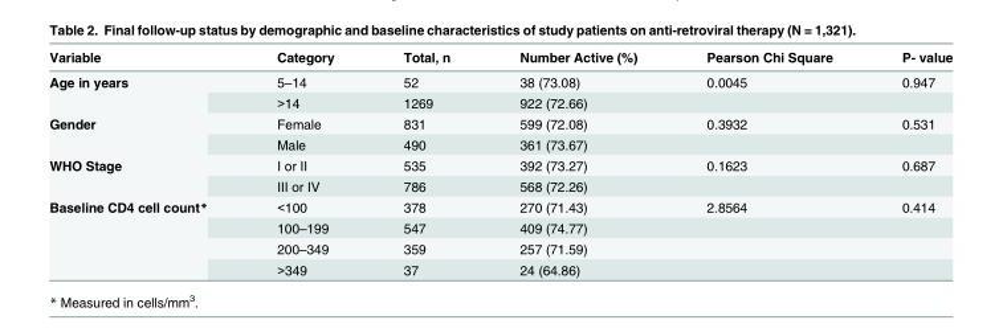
<table><thead><tr><td>Variable</td><td>Category</td><td>Total, n</td><td>Number Active (%)</td><td>Pearson Chi Square</td><td>P- value</td></tr></thead><tbody><tr><td rowspan="2">Age in years</td><td>5–14</td><td>52</td><td>38 (73.08)</td><td>0.0045</td><td>0.947</td></tr><tr><td>&gt;14</td><td>1269</td><td>922 (72.66)</td><td></td><td></td></tr><tr><td rowspan="2">Gender</td><td>Female</td><td>831</td><td>599 (72.08)</td><td>0.3932</td><td>0.531</td></tr><tr><td>Male</td><td>490</td><td>361 (73.67)</td><td></td><td></td></tr><tr><td rowspan="2">WHO Stage</td><td>I or II</td><td>535</td><td>392 (73.27)</td><td>0.1623</td><td>0.687</td></tr><tr><td>III or IV</td><td>786</td><td>568 (72.26)</td><td></td><td></td></tr><tr><td rowspan="4">Baseline CD4 cell count*</td><td>&lt;100</td><td>378</td><td>270 (71.43)</td><td>2.8564</td><td>0.414</td></tr><tr><td>100–199</td><td>547</td><td>409 (74.77)</td><td></td><td></td></tr><tr><td>200–349</td><td>359</td><td>257 (71.59)</td><td></td><td></td></tr><tr><td>&gt;349</td><td>37</td><td>24 (64.86)</td><td></td><td></td></tr></tbody></table>